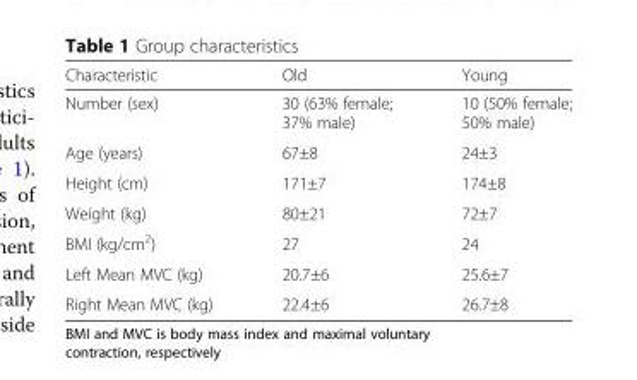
<table><thead><tr><td>Characteristic</td><td>Old</td><td>Young</td></tr></thead><tbody><tr><td>Number (sex)</td><td>30 (63% female; 37% male)</td><td>10 (50% female; 50% male)</td></tr><tr><td>Age (years)</td><td>67±8</td><td>24±3</td></tr><tr><td>Height (cm)</td><td>171±7</td><td>174±8</td></tr><tr><td>Weight (kg)</td><td>80±21</td><td>72±7</td></tr><tr><td>BMI (kg/cm<sup>2</sup>)</td><td>27</td><td>24</td></tr><tr><td>Left Mean MVC (kg)</td><td>20.7±6</td><td>25.6±7</td></tr><tr><td>Right Mean MVC (kg)</td><td>22.4±6</td><td>26.7±8</td></tr></tbody></table>